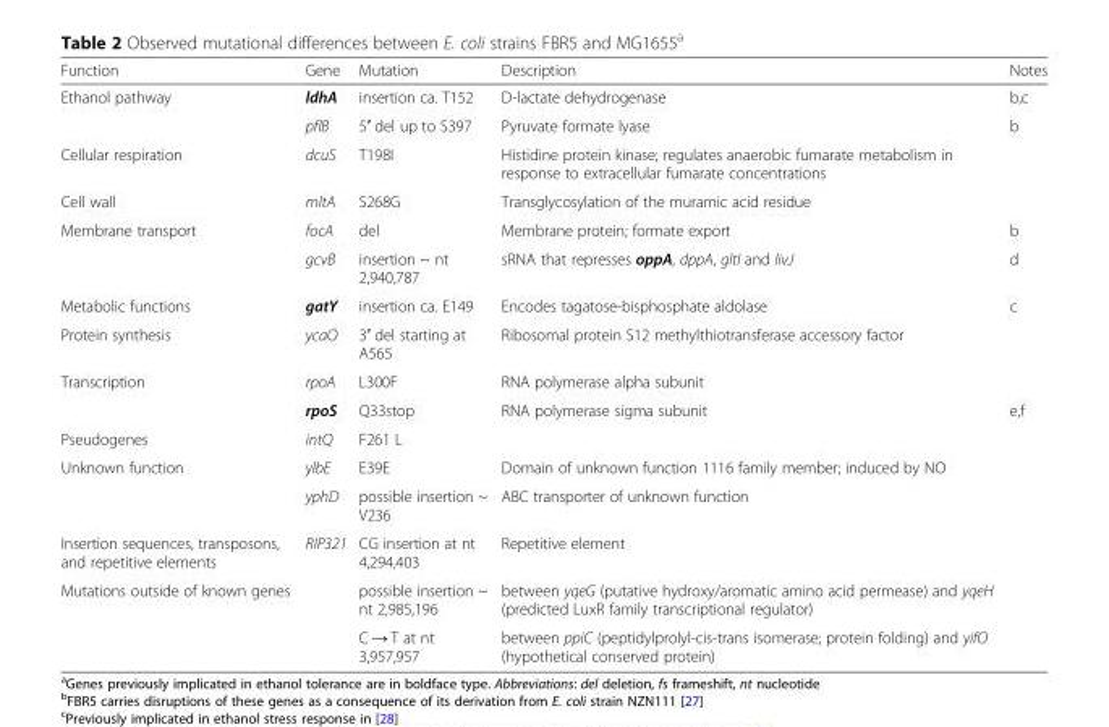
<table><thead><tr><td>Function</td><td>Gene</td><td>Mutation</td><td>Description</td><td>Notes</td></tr></thead><tbody><tr><td rowspan="2">Ethanol pathway</td><td>ldhA</td><td>insertion ca. T152</td><td>D-lactate dehydrogenase</td><td>b,c</td></tr><tr><td>pflB</td><td>5′ del up to S397</td><td>Pyruvate formate lyase</td><td>b</td></tr><tr><td>Cellular respiration</td><td>dcuS</td><td>T198I</td><td>Histidine protein kinase; regulates anaerobic fumarate metabolism in response to extracellular fumarate concentrations</td><td></td></tr><tr><td>Cell wall</td><td>mltA</td><td>S268G</td><td>Transglycosylation of the muramic acid residue</td><td></td></tr><tr><td rowspan="2">Membrane transport</td><td>focA</td><td>del</td><td>Membrane protein; formate export</td><td>b</td></tr><tr><td>gcvB</td><td>insertion ~ nt 2,940,787</td><td>sRNA that represses oppA, dppA, gltI and livJ</td><td>d</td></tr><tr><td>Metabolic functions</td><td>gatY</td><td>insertion ca. E149</td><td>Encodes tagatose-bisphosphate aldolase</td><td>c</td></tr><tr><td>Protein synthesis</td><td>ycaO</td><td>3′ del starting at A565</td><td>Ribosomal protein S12 methylthiotransferase accessory factor</td><td></td></tr><tr><td rowspan="2">Transcription</td><td>rpoA</td><td>L300F</td><td>RNA polymerase alpha subunit</td><td></td></tr><tr><td>rpoS</td><td>Q33stop</td><td>RNA polymerase sigma subunit</td><td>e,f</td></tr><tr><td>Pseudogenes</td><td>intQ</td><td>F261 L</td><td></td><td></td></tr><tr><td rowspan="2">Unknown function</td><td>ylbE</td><td>E39E</td><td>Domain of unknown function 1116 family member; induced by NO</td><td></td></tr><tr><td>yphD</td><td>possible insertion ~ V236</td><td>ABC transporter of unknown function</td><td></td></tr><tr><td>Insertion sequences, transposons, and repetitive elements</td><td>RIP321</td><td>CG insertion at nt 4,294,403</td><td>Repetitive element</td><td></td></tr><tr><td rowspan="2">Mutations outside of known genes</td><td></td><td>possible insertion ~ nt 2,985,196</td><td>between yqeG (putative hydroxy/aromatic amino acid permease) and yqeH (predicted LuxR family transcriptional regulator)</td><td></td></tr><tr><td></td><td>C → T at nt 3,957,957</td><td>between ppiC (peptidylprolyl-cis-trans isomerase; protein folding) and yifO (hypothetical conserved protein)</td><td></td></tr></tbody></table>